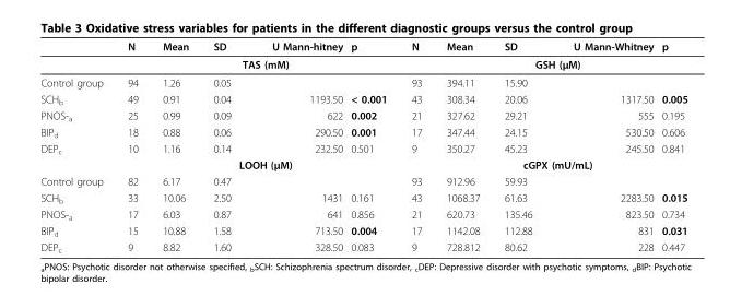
<table><thead><tr><td></td><td>N</td><td>Mean</td><td>SD</td><td>U Mann-hitney</td><td>p</td><td>N</td><td>Mean</td><td>SD</td><td>U Mann-Whitney</td><td>p</td></tr></thead><tbody><tr><td></td><td colspan="5">TAS (mM)</td><td colspan="5">GSH (μM)</td></tr><tr><td>Control group</td><td>94</td><td>1.26</td><td>0.05</td><td></td><td></td><td>93</td><td>394.11</td><td>15.90</td><td></td><td></td></tr><tr><td>SCH<sub>b</sub></td><td>49</td><td>0.91</td><td>0.04</td><td>1193.50</td><td>&lt; 0.001</td><td>43</td><td>308.34</td><td>20.06</td><td>1317.50</td><td>0.005</td></tr><tr><td>PNOS-<sub>a</sub></td><td>25</td><td>0.99</td><td>0.09</td><td>622</td><td>0.002</td><td>21</td><td>327.62</td><td>29.21</td><td>555</td><td>0.195</td></tr><tr><td>BIP<sub>d</sub></td><td>18</td><td>0.88</td><td>0.06</td><td>290.50</td><td>0.001</td><td>17</td><td>347.44</td><td>24.15</td><td>530.50</td><td>0.606</td></tr><tr><td rowspan="2">DEP<sub>c</sub></td><td>10</td><td>1.16</td><td>0.14</td><td>232.50</td><td>0.501</td><td>9</td><td>350.27</td><td>45.23</td><td>245.50</td><td>0.841</td></tr><tr><td colspan="5">LOOH (μM)</td><td colspan="5">cGPX (mU/mL)</td></tr><tr><td>Control group</td><td>82</td><td>6.17</td><td>0.47</td><td></td><td></td><td>93</td><td>912.96</td><td>59.93</td><td></td><td></td></tr><tr><td>SCH<sub>b</sub></td><td>33</td><td>10.06</td><td>2.50</td><td>1431</td><td>0.161</td><td>43</td><td>1068.37</td><td>61.63</td><td>2283.50</td><td>0.015</td></tr><tr><td>PNOS-<sub>a</sub></td><td>17</td><td>6.03</td><td>0.87</td><td>641</td><td>0.856</td><td>21</td><td>620.73</td><td>135.46</td><td>823.50</td><td>0.734</td></tr><tr><td>BIP<sub>d</sub></td><td>15</td><td>10.88</td><td>1.58</td><td>713.50</td><td>0.004</td><td>17</td><td>1142.08</td><td>112.88</td><td>831</td><td>0.031</td></tr><tr><td>DEP<sub>c</sub></td><td>9</td><td>8.82</td><td>1.60</td><td>328.50</td><td>0.083</td><td>9</td><td>728.812</td><td>80.62</td><td>228</td><td>0.447</td></tr></tbody></table>